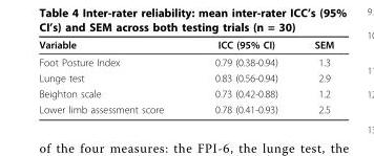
<table><thead><tr><td>Variable</td><td>ICC (95% CI)</td><td>SEM</td></tr></thead><tbody><tr><td>Foot Posture Index</td><td>0.79 (0.38-0.94)</td><td>1.3</td></tr><tr><td>Lunge test</td><td>0.83 (0.56-0.94)</td><td>2.9</td></tr><tr><td>Beighton scale</td><td>0.73 (0.42-0.88)</td><td>1.2</td></tr><tr><td>Lower limb assessment score</td><td>0.78 (0.41-0.93)</td><td>2.5</td></tr></tbody></table>